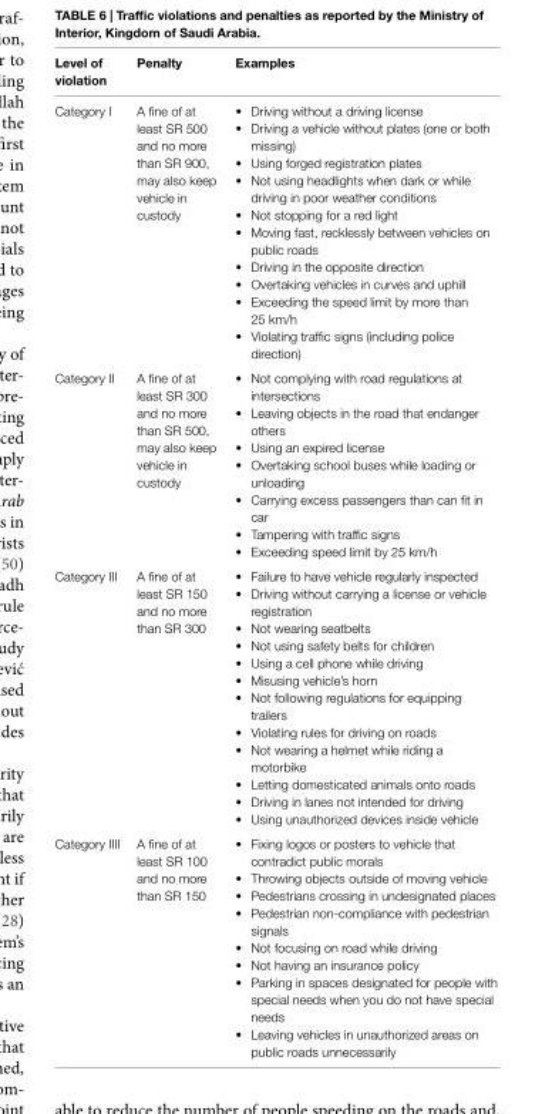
<table><thead><tr><td>level of violation</td><td>Penalty</td><td>examples</td></tr></thead><tbody><tr><td>Category I</td><td>A fine of at least SR 500 and no more than SR 900, may also keep vehicle in custody</td><td>• Driving without a driving license • Driving a vehicle without plates (one or both missing) • Using forged registration plates • Not using headlights when dark or while driving in poor weather conditions • Not stopping for a red light • Moving fast, recklessly between vehicles on public roads • Driving in the opposite direction • Overtaking vehicles in curves and uphill • Exceeding the speed limit by more than 25 km/h • Violating traffic signs (including police direction)</td></tr><tr><td>Category II</td><td>A fine of at least SR 300 and no more than SR 500, may also keep vehicle in custody</td><td>• Not complying with road regulations at intersections • Leaving objects in the road that endanger others • Using an expired license • Overtaking school buses while loading or unloading • Carrying excess passengers than can fit in car • Tampering with traffic signs • Exceeding speed limit by 25 km/h</td></tr><tr><td>Category III</td><td>A fine of at least SR 150 and no more than SR 300</td><td>• Failure to have vehicle regularly inspected • Driving without carrying a license or vehicle registration • Not wearing seatbelts • Not using safety belts for children • Using a cell phone while driving • Misusing vehicle’s horn • Not following regulations for equipping trailers • Violating rules for driving on roads • Not wearing a helmet while riding a motorbike • Letting domesticated animals onto roads • Driving in lanes not intended for driving • Using unauthorized devices inside vehicle</td></tr><tr><td>Category IIII</td><td>A fine of at least SR 100 and no more than SR 150</td><td>• Fixing logos or posters to vehicle that contradict public morals • Throwing objects outside of moving vehicle • Pedestrians crossing in undesignated places • Pedestrian non-compliance with pedestrian signals • Not focusing on road while driving • Not having an insurance policy • Parking in spaces designated for people with special needs when you do not have special needs • Leaving vehicles in unauthorized areas on public roads unnecessarily</td></tr></tbody></table>